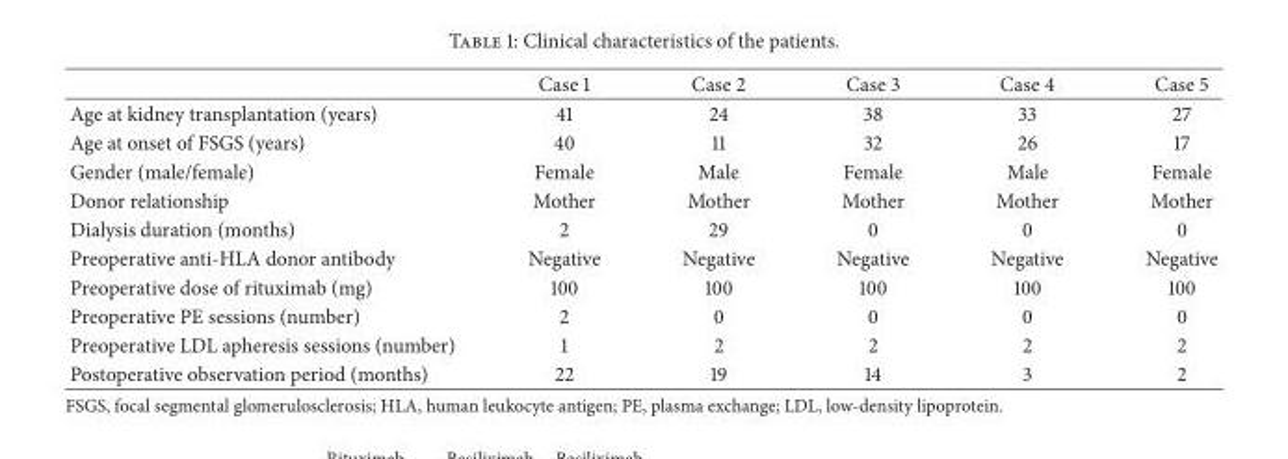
<table><thead><tr><td></td><td>Case 1</td><td>Case 2</td><td>Case 3</td><td>Case 4</td><td>Case 5</td></tr></thead><tbody><tr><td>Age at kidney transplantation (years)</td><td>41</td><td>24</td><td>38</td><td>33</td><td>27</td></tr><tr><td>Age at onset of FSGS (years)</td><td>40</td><td>11</td><td>32</td><td>26</td><td>17</td></tr><tr><td>Gender (male/female)</td><td>Female</td><td>Male</td><td>Female</td><td>Male</td><td>Female</td></tr><tr><td>Donor relationship</td><td>Mother</td><td>Mother</td><td>Mother</td><td>Mother</td><td>Mother</td></tr><tr><td>Dialysis duration (months)</td><td>2</td><td>29</td><td>0</td><td>0</td><td>0</td></tr><tr><td>Preoperative anti-HLA donor antibody</td><td>Negative</td><td>Negative</td><td>Negative</td><td>Negative</td><td>Negative</td></tr><tr><td>Preoperative dose of rituximab (mg)</td><td>100</td><td>100</td><td>100</td><td>100</td><td>100</td></tr><tr><td>Preoperative PE sessions (number)</td><td>2</td><td>0</td><td>0</td><td>0</td><td>0</td></tr><tr><td>Preoperative LDL apheresis sessions (number)</td><td>1</td><td>2</td><td>2</td><td>2</td><td>2</td></tr><tr><td>Postoperative observation period (months)</td><td>22</td><td>19</td><td>14</td><td>3</td><td>2</td></tr></tbody></table>